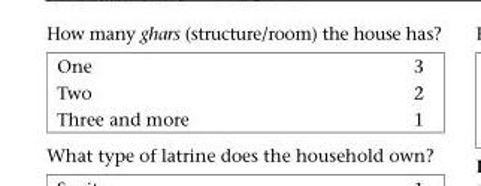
<table><tbody><tr><td>One</td><td>3</td></tr><tr><td>Two</td><td>2</td></tr><tr><td>Three and more</td><td>1</td></tr></tbody></table>